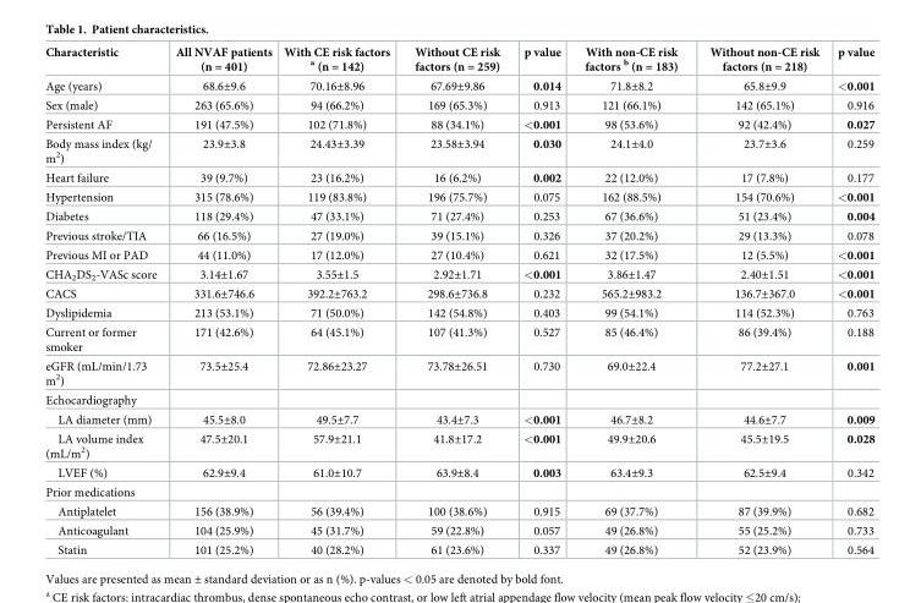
<table><thead><tr><td>Characteristic</td><td>All NVAF patients (n = 401)</td><td>With CE risk factors <sup>a</sup> (n = 142)</td><td>Without CE risk factors (n = 259)</td><td>p value</td><td>With non-CE risk factors <sup>b</sup> (n = 183)</td><td>Without non-CE risk factors (n = 218)</td><td>p value</td></tr></thead><tbody><tr><td>Age (years)</td><td>68.6±9.6</td><td>70.16±8.96</td><td>67.69±9.86</td><td>0.014</td><td>71.8±8.2</td><td>65.8±9.9</td><td>&lt;0.001</td></tr><tr><td>Sex (male)</td><td>263 (65.6%)</td><td>94 (66.2%)</td><td>169 (65.3%)</td><td>0.913</td><td>121 (66.1%)</td><td>142 (65.1%)</td><td>0.916</td></tr><tr><td>Persistent AF</td><td>191 (47.5%)</td><td>102 (71.8%)</td><td>88 (34.1%)</td><td>&lt;0.001</td><td>98 (53.6%)</td><td>92 (42.4%)</td><td>0.027</td></tr><tr><td>Body mass index (kg/ m<sup>2</sup>)</td><td>23.9±3.8</td><td>24.43±3.39</td><td>23.58±3.94</td><td>0.030</td><td>24.1±4.0</td><td>23.7±3.6</td><td>0.259</td></tr><tr><td>Heart failure</td><td>39 (9.7%)</td><td>23 (16.2%)</td><td>16 (6.2%)</td><td>0.002</td><td>22 (12.0%)</td><td>17 (7.8%)</td><td>0.177</td></tr><tr><td>Hypertension</td><td>315 (78.6%)</td><td>119 (83.8%)</td><td>196 (75.7%)</td><td>0.075</td><td>162 (88.5%)</td><td>154 (70.6%)</td><td>&lt;0.001</td></tr><tr><td>Diabetes</td><td>118 (29.4%)</td><td>47 (33.1%)</td><td>71 (27.4%)</td><td>0.253</td><td>67 (36.6%)</td><td>51 (23.4%)</td><td>0.004</td></tr><tr><td>Previous stroke/TIA</td><td>66 (16.5%)</td><td>27 (19.0%)</td><td>39 (15.1%)</td><td>0.326</td><td>37 (20.2%)</td><td>29 (13.3%)</td><td>0.078</td></tr><tr><td>Previous MI or PAD</td><td>44 (11.0%)</td><td>17 (12.0%)</td><td>27 (10.4%)</td><td>0.621</td><td>32 (17.5%)</td><td>12 (5.5%)</td><td>&lt;0.001</td></tr><tr><td>CHA<sub>2</sub>DS<sub>2</sub>-VASc score</td><td>3.14±1.67</td><td>3.55±1.5</td><td>2.92±1.71</td><td>&lt;0.001</td><td>3.86±1.47</td><td>2.40±1.51</td><td>&lt;0.001</td></tr><tr><td>CACS</td><td>331.6±746.6</td><td>392.2±763.2</td><td>298.6±736.8</td><td>0.232</td><td>565.2±983.2</td><td>136.7±367.0</td><td>&lt;0.001</td></tr><tr><td>Dyslipidemia</td><td>213 (53.1%)</td><td>71 (50.0%)</td><td>142 (54.8%)</td><td>0.403</td><td>99 (54.1%)</td><td>114 (52.3%)</td><td>0.763</td></tr><tr><td>Current or former smoker</td><td>171 (42.6%)</td><td>64 (45.1%)</td><td>107 (41.3%)</td><td>0.527</td><td>85 (46.4%)</td><td>86 (39.4%)</td><td>0.188</td></tr><tr><td>eGFR (mL/min/1.73 m<sup>2</sup>)</td><td>73.5±25.4</td><td>72.86±23.27</td><td>73.78±26.51</td><td>0.730</td><td>69.0±22.4</td><td>77.2±27.1</td><td>0.001</td></tr><tr><td colspan="8">Echocardiography</td></tr><tr><td>LA diameter (mm)</td><td>45.5±8.0</td><td>49.5±7.7</td><td>43.4±7.3</td><td>&lt;0.001</td><td>46.7±8.2</td><td>44.6±7.7</td><td>0.009</td></tr><tr><td>LA volume index (mL/m<sup>2</sup>)</td><td>47.5±20.1</td><td>57.9±21.1</td><td>41.8±17.2</td><td>&lt;0.001</td><td>49.9±20.6</td><td>45.5±19.5</td><td>0.028</td></tr><tr><td>LVEF (%)</td><td>62.9±9.4</td><td>61.0±10.7</td><td>63.9±8.4</td><td>0.003</td><td>63.4±9.3</td><td>62.5±9.4</td><td>0.342</td></tr><tr><td colspan="8">Prior medications</td></tr><tr><td>Antiplatelet</td><td>156 (38.9%)</td><td>56 (39.4%)</td><td>100 (38.6%)</td><td>0.915</td><td>69 (37.7%)</td><td>87 (39.9%)</td><td>0.682</td></tr><tr><td>Anticoagulant</td><td>104 (25.9%)</td><td>45 (31.7%)</td><td>59 (22.8%)</td><td>0.057</td><td>49 (26.8%)</td><td>55 (25.2%)</td><td>0.733</td></tr><tr><td>Statin</td><td>101 (25.2%)</td><td>40 (28.2%)</td><td>61 (23.6%)</td><td>0.337</td><td>49 (26.8%)</td><td>52 (23.9%)</td><td>0.564</td></tr></tbody></table>